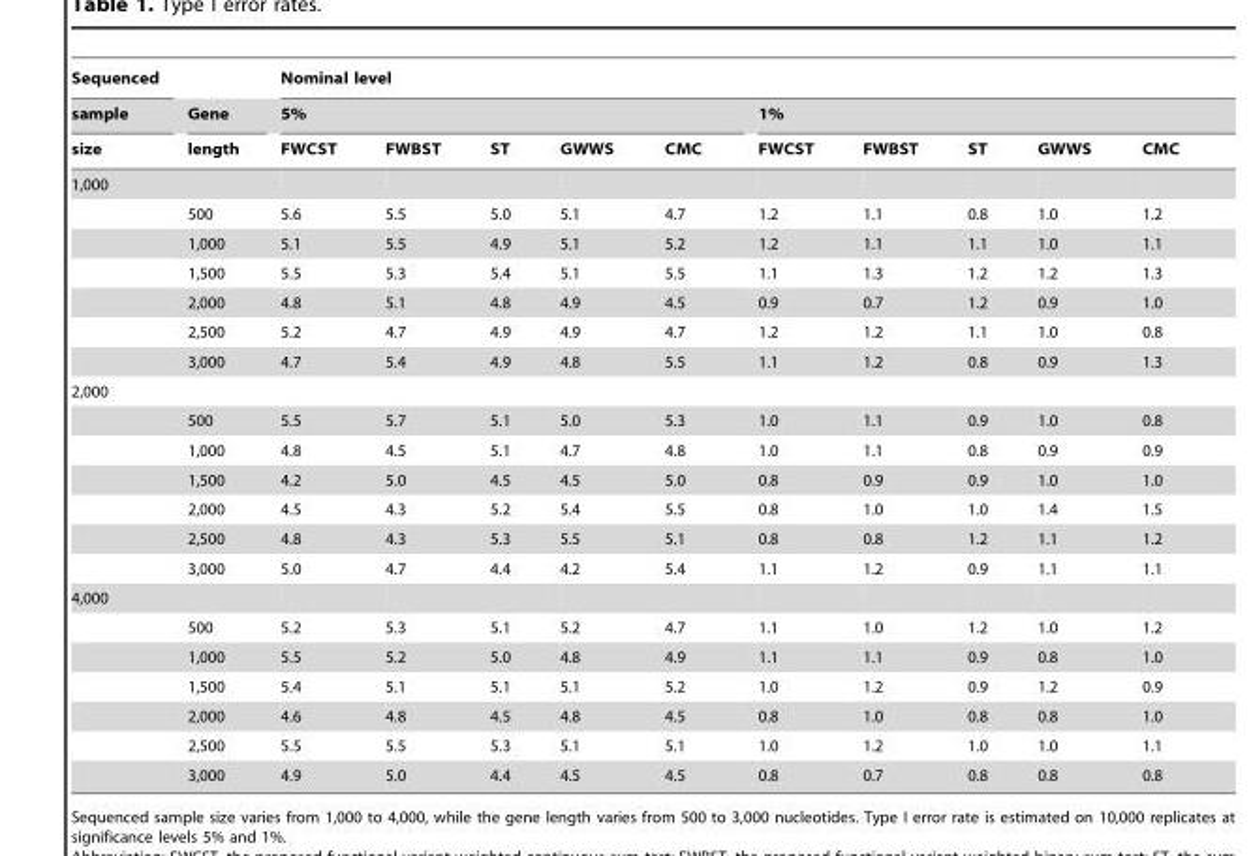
<table><thead><tr><td rowspan="3">Sequenced sample size</td><td rowspan="3">Gene length</td><td colspan="10">Nominal level</td></tr><tr><td colspan="5">5%</td><td colspan="5">1%</td></tr><tr><td>FWCST</td><td>FWBST</td><td>ST</td><td>GWWS</td><td>CMC</td><td>FWCST</td><td>FWBST</td><td>ST</td><td>GWWS</td><td>CMC</td></tr></thead><tbody><tr><td colspan="12">1,000</td></tr><tr><td></td><td>500</td><td>5.6</td><td>5.5</td><td>5.0</td><td>5.1</td><td>4.7</td><td>1.2</td><td>1.1</td><td>0.8</td><td>1.0</td><td>1.2</td></tr><tr><td></td><td>1,000</td><td>5.1</td><td>5.5</td><td>4.9</td><td>5.1</td><td>5.2</td><td>1.2</td><td>1.1</td><td>1.1</td><td>1.0</td><td>1.1</td></tr><tr><td></td><td>1,500</td><td>5.5</td><td>5.3</td><td>5.4</td><td>5.1</td><td>5.5</td><td>1.1</td><td>1.3</td><td>1.2</td><td>1.2</td><td>1.3</td></tr><tr><td></td><td>2,000</td><td>4.8</td><td>5.1</td><td>4.8</td><td>4.9</td><td>4.5</td><td>0.9</td><td>0.7</td><td>1.2</td><td>0.9</td><td>1.0</td></tr><tr><td></td><td>2,500</td><td>5.2</td><td>4.7</td><td>4.9</td><td>4.9</td><td>4.7</td><td>1.2</td><td>1.2</td><td>1.1</td><td>1.0</td><td>0.8</td></tr><tr><td></td><td>3,000</td><td>4.7</td><td>5.4</td><td>4.9</td><td>4.8</td><td>5.5</td><td>1.1</td><td>1.2</td><td>0.8</td><td>0.9</td><td>1.3</td></tr><tr><td colspan="12">2,000</td></tr><tr><td></td><td>500</td><td>5.5</td><td>5.7</td><td>5.1</td><td>5.0</td><td>5.3</td><td>1.0</td><td>1.1</td><td>0.9</td><td>1.0</td><td>0.8</td></tr><tr><td></td><td>1,000</td><td>4.8</td><td>4.5</td><td>5.1</td><td>4.7</td><td>4.8</td><td>1.0</td><td>1.1</td><td>0.8</td><td>0.9</td><td>0.9</td></tr><tr><td></td><td>1,500</td><td>4.2</td><td>5.0</td><td>4.5</td><td>4.5</td><td>5.0</td><td>0.8</td><td>0.9</td><td>0.9</td><td>1.0</td><td>1.0</td></tr><tr><td></td><td>2,000</td><td>4.5</td><td>4.3</td><td>5.2</td><td>5.4</td><td>5.5</td><td>0.8</td><td>1.0</td><td>1.0</td><td>1.4</td><td>1.5</td></tr><tr><td></td><td>2,500</td><td>4.8</td><td>4.3</td><td>5.3</td><td>5.5</td><td>5.1</td><td>0.8</td><td>0.8</td><td>1.2</td><td>1.1</td><td>1.2</td></tr><tr><td></td><td>3,000</td><td>5.0</td><td>4.7</td><td>4.4</td><td>4.2</td><td>5.4</td><td>1.1</td><td>1.2</td><td>0.9</td><td>1.1</td><td>1.1</td></tr><tr><td colspan="12">4,000</td></tr><tr><td></td><td>500</td><td>5.2</td><td>5.3</td><td>5.1</td><td>5.2</td><td>4.7</td><td>1.1</td><td>1.0</td><td>1.2</td><td>1.0</td><td>1.2</td></tr><tr><td></td><td>1,000</td><td>5.5</td><td>5.2</td><td>5.0</td><td>4.8</td><td>4.9</td><td>1.1</td><td>1.1</td><td>0.9</td><td>0.8</td><td>1.0</td></tr><tr><td></td><td>1,500</td><td>5.4</td><td>5.1</td><td>5.1</td><td>5.1</td><td>5.2</td><td>1.0</td><td>1.2</td><td>0.9</td><td>1.2</td><td>0.9</td></tr><tr><td></td><td>2,000</td><td>4.6</td><td>4.8</td><td>4.5</td><td>4.8</td><td>4.5</td><td>0.8</td><td>1.0</td><td>0.8</td><td>0.8</td><td>1.0</td></tr><tr><td></td><td>2,500</td><td>5.5</td><td>5.5</td><td>5.3</td><td>5.1</td><td>5.1</td><td>1.0</td><td>1.2</td><td>1.0</td><td>1.0</td><td>1.1</td></tr><tr><td></td><td>3,000</td><td>4.9</td><td>5.0</td><td>4.4</td><td>4.5</td><td>4.5</td><td>0.8</td><td>0.7</td><td>0.8</td><td>0.8</td><td>0.8</td></tr></tbody></table>